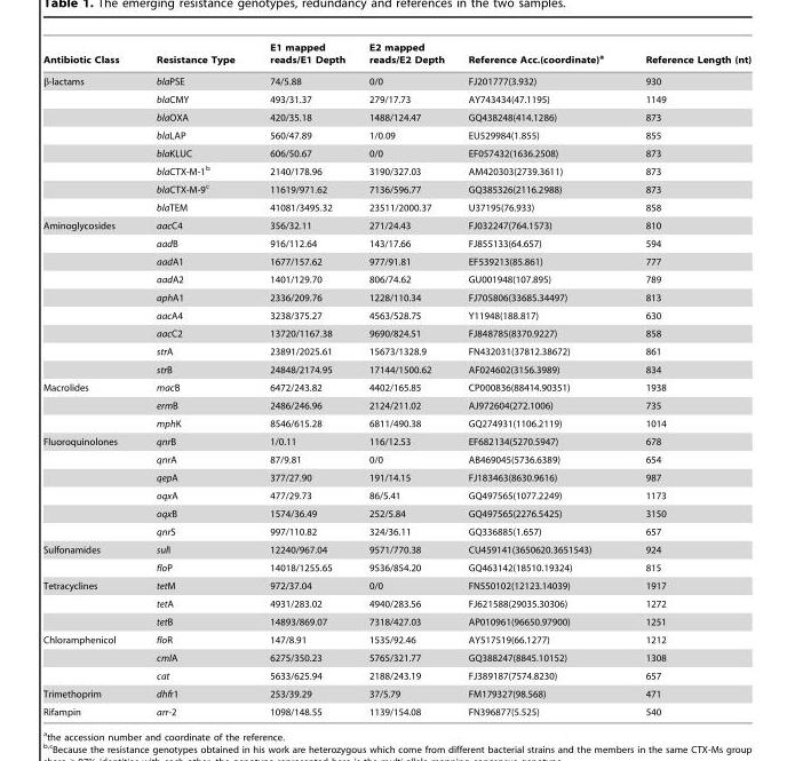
<table><thead><tr><td>Antibiotic Class</td><td>Resistance Type</td><td>E1 mapped reads/E1 Depth</td><td>E2 mapped reads/E2 Depth</td><td>Reference Acc.(coordinate)<sup>a</sup></td><td>Reference Length (nt)</td></tr></thead><tbody><tr><td rowspan="8">β-lactams</td><td>blaPSE</td><td>74/5.88</td><td>0/0</td><td>FJ201777(3.932)</td><td>930</td></tr><tr><td>blaCMY</td><td>493/31.37</td><td>279/17.73</td><td>AY743434(47.1195)</td><td>1149</td></tr><tr><td>blaOXA</td><td>420/35.18</td><td>1488/124.47</td><td>GQ438248(414.1286)</td><td>873</td></tr><tr><td>blaLAP</td><td>560/47.89</td><td>1/0.09</td><td>EU529984(1.855)</td><td>855</td></tr><tr><td>blaKLUC</td><td>606/50.67</td><td>0/0</td><td>EF057432(1636.2508)</td><td>873</td></tr><tr><td>blaCTX-M-1<sup>b</sup></td><td>2140/178.96</td><td>3190/327.03</td><td>AM420303(2739.3611)</td><td>873</td></tr><tr><td>blaCTX-M-9<sup>c</sup></td><td>11619/971.62</td><td>7136/596.77</td><td>GQ385326(2116.2988)</td><td>873</td></tr><tr><td>blaTEM</td><td>41081/3495.32</td><td>23511/2000.37</td><td>U37195(76.933)</td><td>858</td></tr><tr><td rowspan="9">Aminoglycosides</td><td>aacC4</td><td>356/32.11</td><td>271/24.43</td><td>FJ032247(764.1573)</td><td>810</td></tr><tr><td>aadB</td><td>916/112.64</td><td>143/17.66</td><td>FJ855133(64.657)</td><td>594</td></tr><tr><td>aadA1</td><td>1677/157.62</td><td>977/91.81</td><td>EF539213(85.861)</td><td>777</td></tr><tr><td>aadA2</td><td>1401/129.70</td><td>806/74.62</td><td>GU001948(107.895)</td><td>789</td></tr><tr><td>aphA1</td><td>2336/209.76</td><td>1228/110.34</td><td>FJ705806(33685.34497)</td><td>813</td></tr><tr><td>aacA4</td><td>3238/375.27</td><td>4563/528.75</td><td>Y11948(188.817)</td><td>630</td></tr><tr><td>aacC2</td><td>13720/1167.38</td><td>9690/824.51</td><td>FJ848785(8370.9227)</td><td>858</td></tr><tr><td>strA</td><td>23891/2025.61</td><td>15673/1328.9</td><td>FN432031(37812.38672)</td><td>861</td></tr><tr><td>strB</td><td>24848/2174.95</td><td>17144/1500.62</td><td>AF024602(3156.3989)</td><td>834</td></tr><tr><td rowspan="3">Macrolides</td><td>macB</td><td>6472/243.82</td><td>4402/165.85</td><td>CP000836(88414.90351)</td><td>1938</td></tr><tr><td>ermB</td><td>2486/246.96</td><td>2124/211.02</td><td>AJ972604(272.1006)</td><td>735</td></tr><tr><td>mphK</td><td>8546/615.28</td><td>6811/490.38</td><td>GQ274931(1106.2119)</td><td>1014</td></tr><tr><td rowspan="6">Fluoroquinolones</td><td>qnrB</td><td>1/0.11</td><td>116/12.53</td><td>EF682134(5270.5947)</td><td>678</td></tr><tr><td>qnrA</td><td>87/9.81</td><td>0/0</td><td>AB469045(5736.6389)</td><td>654</td></tr><tr><td>qepA</td><td>377/27.90</td><td>191/14.15</td><td>FJ183463(8630.9616)</td><td>987</td></tr><tr><td>oqxA</td><td>477/29.73</td><td>86/5.41</td><td>GQ497565(1077.2249)</td><td>1173</td></tr><tr><td>oqxB</td><td>1574/36.49</td><td>252/5.84</td><td>GQ497565(2276.5425)</td><td>3150</td></tr><tr><td>qnrS</td><td>997/110.82</td><td>324/36.11</td><td>GQ336885(1.657)</td><td>657</td></tr><tr><td rowspan="2">Sulfonamides</td><td>sulI</td><td>12240/967.04</td><td>9571/770.38</td><td>CU459141(3650620.3651543)</td><td>924</td></tr><tr><td>floP</td><td>14018/1255.65</td><td>9536/854.20</td><td>GQ463142(18510.19324)</td><td>815</td></tr><tr><td rowspan="3">Tetracyclines</td><td>tetM</td><td>972/37.04</td><td>0/0</td><td>FN550102(12123.14039)</td><td>1917</td></tr><tr><td>tetA</td><td>4931/283.02</td><td>4940/283.56</td><td>FJ621588(29035.30306)</td><td>1272</td></tr><tr><td>tetB</td><td>14893/869.07</td><td>7318/427.03</td><td>AP010961(96650.97900)</td><td>1251</td></tr><tr><td rowspan="3">Chloramphenicol</td><td>floR</td><td>147/8.91</td><td>1535/92.46</td><td>AY517519(66.1277)</td><td>1212</td></tr><tr><td>cmlA</td><td>6275/350.23</td><td>5765/321.77</td><td>GQ388247(8845.10152)</td><td>1308</td></tr><tr><td>cat</td><td>5633/625.94</td><td>2188/243.19</td><td>FJ389187(7574.8230)</td><td>657</td></tr><tr><td>Trimethoprim</td><td>dhfr1</td><td>253/39.29</td><td>37/5.79</td><td>FM179327(98.568)</td><td>471</td></tr><tr><td>Rifampin</td><td>arr-2</td><td>1098/148.55</td><td>1139/154.08</td><td>FN396877(5.525)</td><td>540</td></tr></tbody></table>